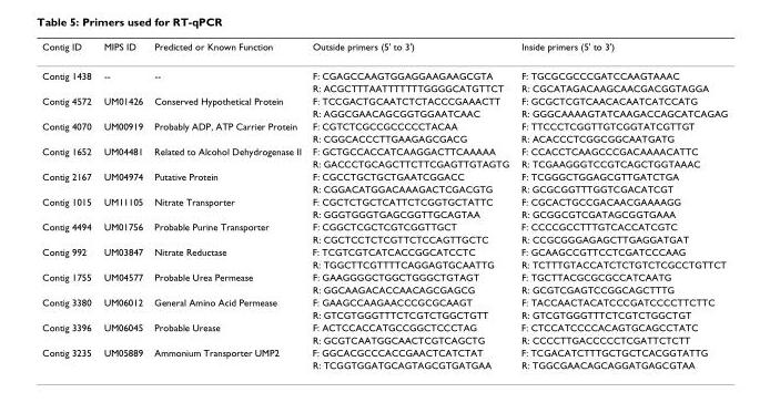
<table><thead><tr><td>Contig ID</td><td>MIPS ID</td><td>Predicted or Known Function</td><td>Outside primers (5&#x27; to 3&#x27;)</td><td>Inside primers (5&#x27; to 3&#x27;)</td></tr></thead><tbody><tr><td rowspan="2">Contig 1438</td><td>--</td><td>--</td><td>F: CGAGCCAAGTGGAGGAAGAAGCGTA</td><td>F: TGCGCGCCCGATCCAAGTAAAC</td></tr><tr><td></td><td></td><td>R: ACGCTTTAATTTTTTTGGGGCATGTTCT</td><td>R: CGCATAGACAAGCAACGACGGTAGGA</td></tr><tr><td rowspan="2">Contig 4572</td><td>UM01426</td><td>Conserved Hypothetical Protein</td><td>F: TCCGACTGCAATCTCTACCCGAAACTT</td><td>F: GCGCTCGTCAACACAATCATCCATG</td></tr><tr><td></td><td></td><td>R: AGGCGAACAGCGGTGGAATCAAC</td><td>R: GGGCAAAAGTATCAAGACCAGCATCAGAG</td></tr><tr><td rowspan="2">Contig 4070</td><td>UM00919</td><td>Probably ADP, ATP Carrier Protein</td><td>F: CGTCTCGCCGCCCCCTACAA</td><td>F: TTCCCTCGGTTGTCGGTATCGTTGT</td></tr><tr><td></td><td></td><td>R: CGGCACCCTTGAAGAGCGACG</td><td>R: ACACCCTCGGCGGCAATGATG</td></tr><tr><td rowspan="2">Contig 1652</td><td>UM04481</td><td>Related to Alcohol Dehydrogenase II</td><td>F: GCTGCCACCATCAAGGACTTCAAAAA</td><td>F: CCACCTCAAGCCCGACAAAACATTC</td></tr><tr><td></td><td></td><td>R: GACCCTGCAGCTTCTTCGAGTTGTAGTG</td><td>R: TCGAAGGGTCCGTCAGCTGGTAAAC</td></tr><tr><td rowspan="2">Contig 2167</td><td>UM04974</td><td>Putative Protein</td><td>F: CGCCTGCTGCTGAATCGGACC</td><td>F: TCGGGCTGGAGCGTTGATCTGA</td></tr><tr><td></td><td></td><td>R: CGGACATGGACAAAGACTCGACGTG</td><td>R: GCGCGGTTTGGTCGACATCGT</td></tr><tr><td rowspan="2">Contig 1015</td><td>UM11105</td><td>Nitrate Transporter</td><td>F: CGCTCTGCTCATTCTCGGTGCTATTC</td><td>F: CGCACTGCCGACAACGAAAAGG</td></tr><tr><td></td><td></td><td>R: GGGTGGGTGAGCGGTTGCAGTAA</td><td>R: GCGGCGTCGATAGCGGTGAAA</td></tr><tr><td rowspan="2">Contig 4494</td><td>UM01756</td><td>Probable Purine Transporter</td><td>F: CGGCTCGCTCGTCGGTTGCT</td><td>F: CCCCGCCTTTGTCACCATCGTC</td></tr><tr><td></td><td></td><td>R: CGCTCCTCTCGTTCTCCAGTTGCTC</td><td>R: CCGCGGGAGAGCTTGAGGATGAT</td></tr><tr><td rowspan="2">Contig 992</td><td>UM03847</td><td>Nitrate Reductase</td><td>F: TCGTCGTCATCACCGGCATCCTC</td><td>F: GCAAGCCGTTCCTCGATCCCAAG</td></tr><tr><td></td><td></td><td>R: TGGCTTCGTTTTCAGGAGTGCAATTG</td><td>R: TCTTTGTACCATCTCTGTCTCGCCTGTTCT</td></tr><tr><td rowspan="2">Contig 1755</td><td>UM04577</td><td>Probable Urea Permease</td><td>F: GAAGGGGCTGGCTGGGCTGTAGT</td><td>F: TGCTTACGCGCGCCATCAATG</td></tr><tr><td></td><td></td><td>R: GGCAAGACACCAACAGCGAGCG</td><td>R: GCGTCGAGTCCGGCAGCTTTG</td></tr><tr><td rowspan="2">Contig 3380</td><td>UM06012</td><td>General Amino Acid Permease</td><td>F: GAAGCCAAGAACCCGCGCAAGT</td><td>F: TACCAACTACATCCCGATCCCCTTCTTC</td></tr><tr><td></td><td></td><td>R: GTCGTGGGTTTCTCGTCTGGCTGTT</td><td>R: GTCGTGGGTTTCTCGTCTGGCTGT</td></tr><tr><td rowspan="2">Contig 3396</td><td>UM06045</td><td>Probable Urease</td><td>F: ACTCCACCATGCCGGCTCCCTAG</td><td>F: CTCCATCCCCACAGTGCAGCCTATC</td></tr><tr><td></td><td></td><td>R: GCGTCAATGGCAACTCGTCAGCTG</td><td>R: CCCCTTGACCCCCTCGATTCTCTT</td></tr><tr><td rowspan="2">Contig 3235</td><td>UM05889</td><td>Ammonium Transporter UMP2</td><td>F: GGCACGCCCACCGAACTCATCTAT</td><td>F: TCGACATCTTTGCTGCTCACGGTATTG</td></tr><tr><td></td><td></td><td>R: TCGGTGGATGCAGTAGCGTGATGAA</td><td>R: TGGCGAACAGCAGGATGAGCGTAA</td></tr></tbody></table>